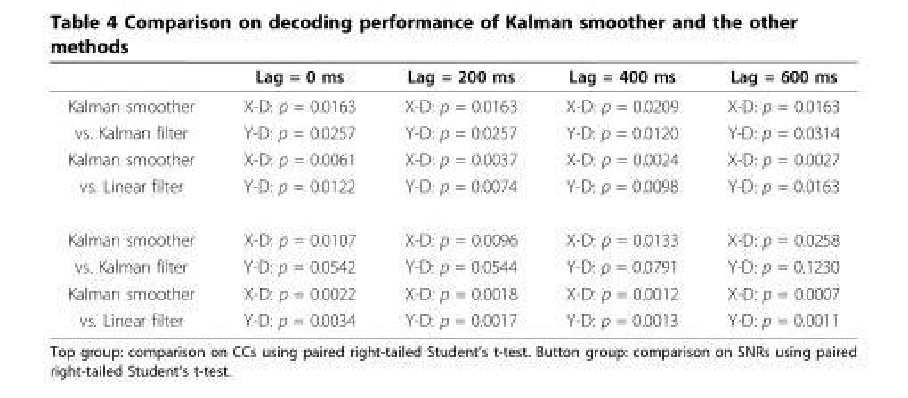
<table><thead><tr><td></td><td>Lag = 0 ms</td><td>Lag = 200 ms</td><td>Lag = 400 ms</td><td>Lag = 600 ms</td></tr></thead><tbody><tr><td>Kalman smoother</td><td>X-D: p = 0.0163</td><td>X-D: p = 0.0163</td><td>X-D: p = 0.0209</td><td>X-D: p = 0.0163</td></tr><tr><td>vs. Kalman filter</td><td>Y-D: p = 0.0257</td><td>Y-D: p = 0.0257</td><td>Y-D: p = 0.0120</td><td>Y-D: p = 0.0314</td></tr><tr><td>Kalman smoother</td><td>X-D: p = 0.0061</td><td>X-D: p = 0.0037</td><td>X-D: p = 0.0024</td><td>X-D: p = 0.0027</td></tr><tr><td>vs. Linear filter</td><td>Y-D: p = 0.0122</td><td>Y-D: p = 0.0074</td><td>Y-D: p = 0.0098</td><td>Y-D: p = 0.0163</td></tr><tr><td>Kalman smoother</td><td>X-D: p = 0.0107</td><td>X-D: p = 0.0096</td><td>X-D: p = 0.0133</td><td>X-D: p = 0.0258</td></tr><tr><td>vs. Kalman filter</td><td>Y-D: p = 0.0542</td><td>Y-D: p = 0.0544</td><td>Y-D: p = 0.0791</td><td>Y-D: p = 0.1230</td></tr><tr><td>Kalman smoother</td><td>X-D: p = 0.0022</td><td>X-D: p = 0.0018</td><td>X-D: p = 0.0012</td><td>X-D: p = 0.0007</td></tr><tr><td>vs. Linear filter</td><td>Y-D: p = 0.0034</td><td>Y-D: p = 0.0017</td><td>Y-D: p = 0.0013</td><td>Y-D: p = 0.0011</td></tr></tbody></table>